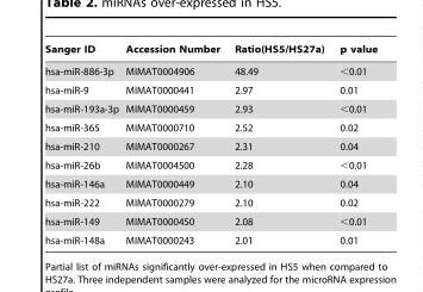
<table><thead><tr><td>Sanger ID</td><td>Accession Number</td><td>Ratio(HS5/HS27a)</td><td>p value</td></tr></thead><tbody><tr><td>hsa-miR-886-3p</td><td>MIMAT0004906</td><td>48.49</td><td>&lt;0.01</td></tr><tr><td>hsa-miR-9</td><td>MIMAT0000441</td><td>2.97</td><td>0.01</td></tr><tr><td>hsa-miR-193a-3p</td><td>MIMAT0000459</td><td>2.93</td><td>&lt;0.01</td></tr><tr><td>hsa-miR-365</td><td>MIMAT0000710</td><td>2.52</td><td>0.02</td></tr><tr><td>hsa-miR-210</td><td>MIMAT0000267</td><td>2.31</td><td>0.04</td></tr><tr><td>hsa-miR-26b</td><td>MIMAT0004500</td><td>2.28</td><td>&lt;0.01</td></tr><tr><td>hsa-miR-146a</td><td>MIMAT0000449</td><td>2.10</td><td>0.04</td></tr><tr><td>hsa-miR-222</td><td>MIMAT0000279</td><td>2.10</td><td>0.02</td></tr><tr><td>hsa-miR-149</td><td>MIMAT0000450</td><td>2.08</td><td>&lt;0.01</td></tr><tr><td>hsa-miR-148a</td><td>MIMAT0000243</td><td>2.01</td><td>0.01</td></tr></tbody></table>